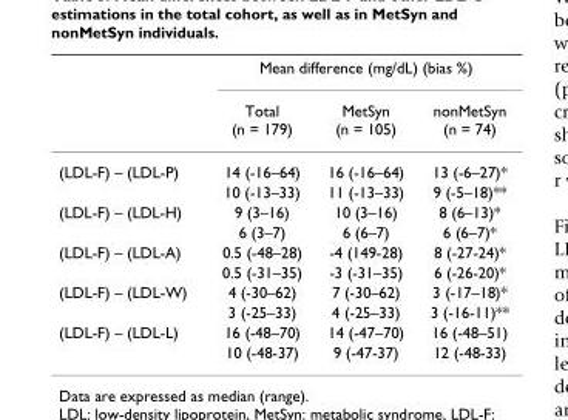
<table><thead><tr><td rowspan="2"></td><td colspan="3">Mean difference (mg/dL) (bias %)</td></tr><tr><td>Total (n = 179)</td><td>MetSyn (n = 105)</td><td>nonMetSyn (n = 74)</td></tr></thead><tbody><tr><td rowspan="2">(LDL-F) – (LDL-P)</td><td>14 (-16–64)</td><td>16 (-16–64)</td><td>13 (-6–27)*</td></tr><tr><td>10 (-13–33)</td><td>11 (-13–33)</td><td>9 (-5–18)**</td></tr><tr><td rowspan="2">(LDL-F) – (LDL-H)</td><td>9 (3–16)</td><td>10 (3–16)</td><td>8 (6–13)*</td></tr><tr><td>6 (3–7)</td><td>6 (6–7)</td><td>6 (6–7)*</td></tr><tr><td rowspan="2">(LDL-F) – (LDL-A)</td><td>0.5 (-48–28)</td><td>-4 (149-28)</td><td>8 (-27-24)*</td></tr><tr><td>0.5 (-31–35)</td><td>-3 (-31–35)</td><td>6 (-26-20)*</td></tr><tr><td rowspan="2">(LDL-F) – (LDL-W)</td><td>4 (-30–62)</td><td>7 (-30–62)</td><td>3 (-17–18)*</td></tr><tr><td>3 (-25–33)</td><td>4 (-25–33)</td><td>3 (-16-11)**</td></tr><tr><td rowspan="2">(LDL-F) – (LDL-L)</td><td>16 (-48–70)</td><td>14 (-47–70)</td><td>16 (-48–51)</td></tr><tr><td>10 (-48-37)</td><td>9 (-47-37)</td><td>12 (-48-33)</td></tr></tbody></table>